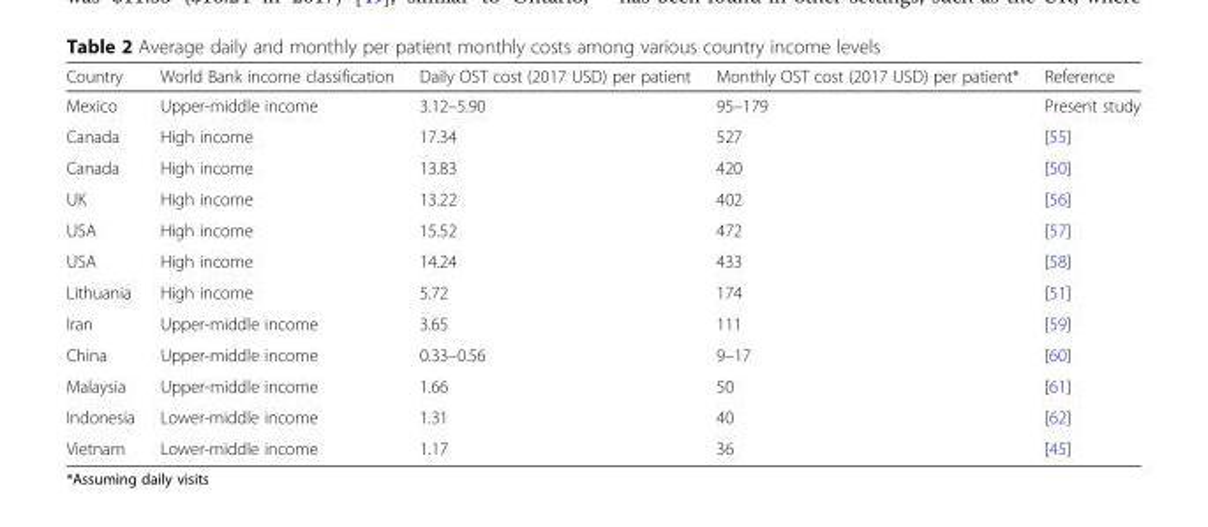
<table><thead><tr><td>Country</td><td>World Bank income classification</td><td>Daily OST cost (2017 USD) per patient</td><td>Monthly OST cost (2017 USD) per patient*</td><td>Reference</td></tr></thead><tbody><tr><td>Mexico</td><td>Upper-middle income</td><td>3.12–5.90</td><td>95–179</td><td>Present study</td></tr><tr><td>Canada</td><td>High income</td><td>17.34</td><td>527</td><td>[55]</td></tr><tr><td>Canada</td><td>High income</td><td>13.83</td><td>420</td><td>[50]</td></tr><tr><td>UK</td><td>High income</td><td>13.22</td><td>402</td><td>[56]</td></tr><tr><td>USA</td><td>High income</td><td>15.52</td><td>472</td><td>[57]</td></tr><tr><td>USA</td><td>High income</td><td>14.24</td><td>433</td><td>[58]</td></tr><tr><td>Lithuania</td><td>High income</td><td>5.72</td><td>174</td><td>[51]</td></tr><tr><td>Iran</td><td>Upper-middle income</td><td>3.65</td><td>111</td><td>[59]</td></tr><tr><td>China</td><td>Upper-middle income</td><td>0.33–0.56</td><td>9–17</td><td>[60]</td></tr><tr><td>Malaysia</td><td>Upper-middle income</td><td>1.66</td><td>50</td><td>[61]</td></tr><tr><td>Indonesia</td><td>Lower-middle income</td><td>1.31</td><td>40</td><td>[62]</td></tr><tr><td>Vietnam</td><td>Lower-middle income</td><td>1.17</td><td>36</td><td>[45]</td></tr></tbody></table>